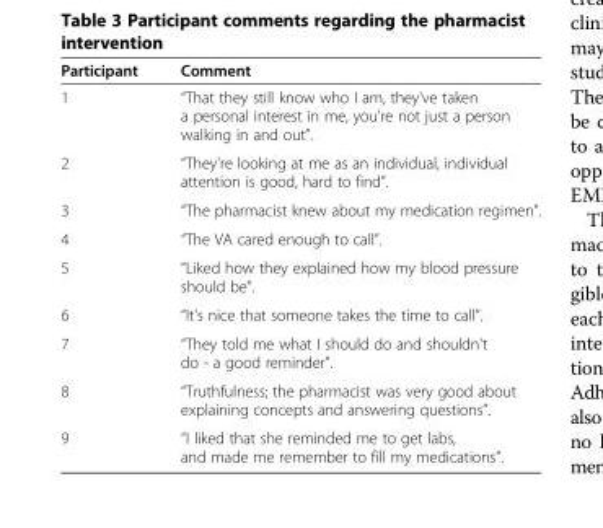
<table><thead><tr><td>Participant</td><td>Comment</td></tr></thead><tbody><tr><td>1</td><td>“That they still know who I am, they&#x27;ve taken a personal interest in me, you&#x27;re not just a person walking in and out”.</td></tr><tr><td>2</td><td>“They&#x27;re looking at me as an individual, individual attention is good, hard to find”.</td></tr><tr><td>3</td><td>“The pharmacist knew about my medication regimen”.</td></tr><tr><td>4</td><td>“The VA cared enough to call”.</td></tr><tr><td>5</td><td>“Liked how they explained how my blood pressure should be”.</td></tr><tr><td>6</td><td>“It&#x27;s nice that someone takes the time to call”.</td></tr><tr><td>7</td><td>“They told me what I should do and shouldn&#x27;t do - a good reminder”.</td></tr><tr><td>8</td><td>“Truthfulness; the pharmacist was very good about explaining concepts and answering questions”.</td></tr><tr><td>9</td><td>“I liked that she reminded me to get labs, and made me remember to fill my medications”.</td></tr></tbody></table>